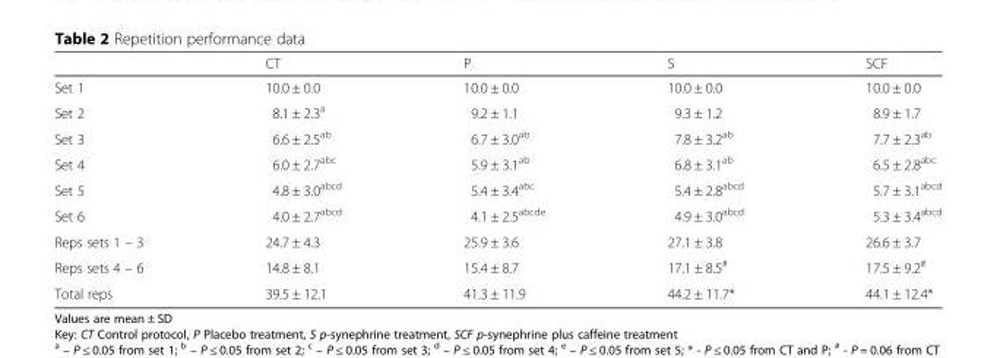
<table><thead><tr><td></td><td>CT</td><td>P</td><td>S</td><td>SCF</td></tr></thead><tbody><tr><td>Set 1</td><td>10.0 ± 0.0</td><td>10.0 ± 0.0</td><td>10.0 ± 0.0</td><td>10.0 ± 0.0</td></tr><tr><td>Set 2</td><td>8.1 ± 2.3<sup>a</sup></td><td>9.2 ± 1.1</td><td>9.3 ± 1.2</td><td>8.9 ± 1.7</td></tr><tr><td>Set 3</td><td>6.6 ± 2.5<sup>ab</sup></td><td>6.7 ± 3.0<sup>ab</sup></td><td>7.8 ± 3.2<sup>ab</sup></td><td>7.7 ± 2.3<sup>ab</sup></td></tr><tr><td>Set 4</td><td>6.0 ± 2.7<sup>abc</sup></td><td>5.9 ± 3.1<sup>ab</sup></td><td>6.8 ± 3.1<sup>ab</sup></td><td>6.5 ± 2.8<sup>abc</sup></td></tr><tr><td>Set 5</td><td>4.8 ± 3.0<sup>abcd</sup></td><td>5.4 ± 3.4<sup>abc</sup></td><td>5.4 ± 2.8<sup>abcd</sup></td><td>5.7 ± 3.1<sup>abcd</sup></td></tr><tr><td>Set 6</td><td>4.0 ± 2.7<sup>abcd</sup></td><td>4.1 ± 2.5<sup>abcde</sup></td><td>4.9 ± 3.0<sup>abcd</sup></td><td>5.3 ± 3.4<sup>abcd</sup></td></tr><tr><td>Reps sets 1 – 3</td><td>24.7 ± 4.3</td><td>25.9 ± 3.6</td><td>27.1 ± 3.8</td><td>26.6 ± 3.7</td></tr><tr><td>Reps sets 4 – 6</td><td>14.8 ± 8.1</td><td>15.4 ± 8.7</td><td>17.1 ± 8.5<sup>#</sup></td><td>17.5 ± 9.2<sup>#</sup></td></tr><tr><td>Total reps</td><td>39.5 ± 12.1</td><td>41.3 ± 11.9</td><td>44.2 ± 11.7*</td><td>44.1 ± 12.4*</td></tr></tbody></table>